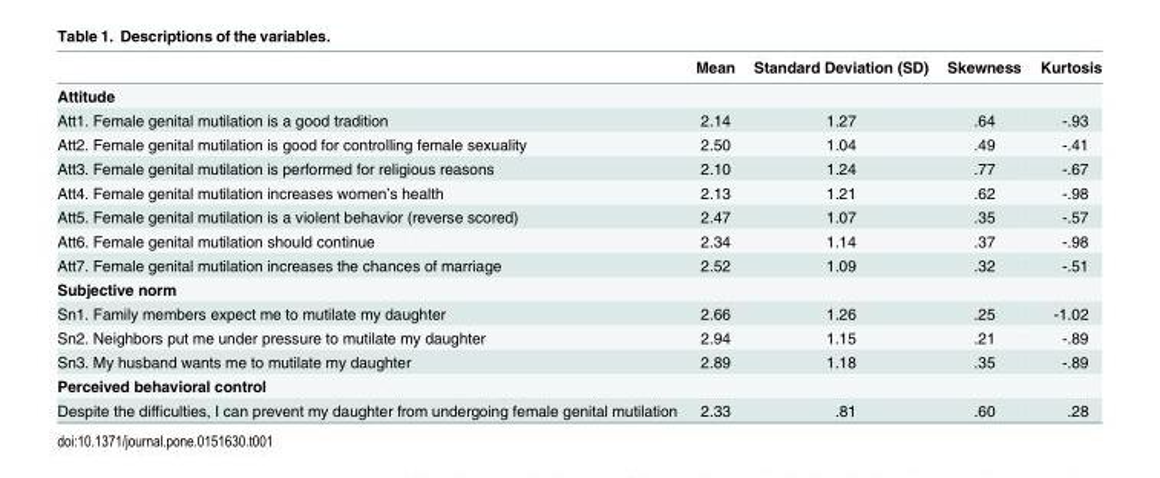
<table><thead><tr><td></td><td>Mean</td><td>Standard Deviation (SD)</td><td>Skewness</td><td>Kurtosis</td></tr></thead><tbody><tr><td colspan="5">Attitude</td></tr><tr><td>Att1. Female genital mutilation is a good tradition</td><td>2.14</td><td>1.27</td><td>.64</td><td>-.93</td></tr><tr><td>Att2. Female genital mutilation is good for controlling female sexuality</td><td>2.50</td><td>1.04</td><td>.49</td><td>-.41</td></tr><tr><td>Att3. Female genital mutilation is performed for religious reasons</td><td>2.10</td><td>1.24</td><td>.77</td><td>-.67</td></tr><tr><td>Att4. Female genital mutilation increases women’s health</td><td>2.13</td><td>1.21</td><td>.62</td><td>-.98</td></tr><tr><td>Att5. Female genital mutilation is a violent behavior (reverse scored)</td><td>2.47</td><td>1.07</td><td>.35</td><td>-.57</td></tr><tr><td>Att6. Female genital mutilation should continue</td><td>2.34</td><td>1.14</td><td>.37</td><td>-.98</td></tr><tr><td>Att7. Female genital mutilation increases the chances of marriage</td><td>2.52</td><td>1.09</td><td>.32</td><td>-.51</td></tr><tr><td colspan="5">Subjective norm</td></tr><tr><td>Sn1. Family members expect me to mutilate my daughter</td><td>2.66</td><td>1.26</td><td>.25</td><td>-1.02</td></tr><tr><td>Sn2. Neighbors put me under pressure to mutilate my daughter</td><td>2.94</td><td>1.15</td><td>.21</td><td>-.89</td></tr><tr><td>Sn3. My husband wants me to mutilate my daughter</td><td>2.89</td><td>1.18</td><td>.35</td><td>-.89</td></tr><tr><td colspan="5">Perceived behavioral control</td></tr><tr><td>Despite the difficulties, I can prevent my daughter from undergoing female genital mutilation</td><td>2.33</td><td>.81</td><td>.60</td><td>.28</td></tr></tbody></table>